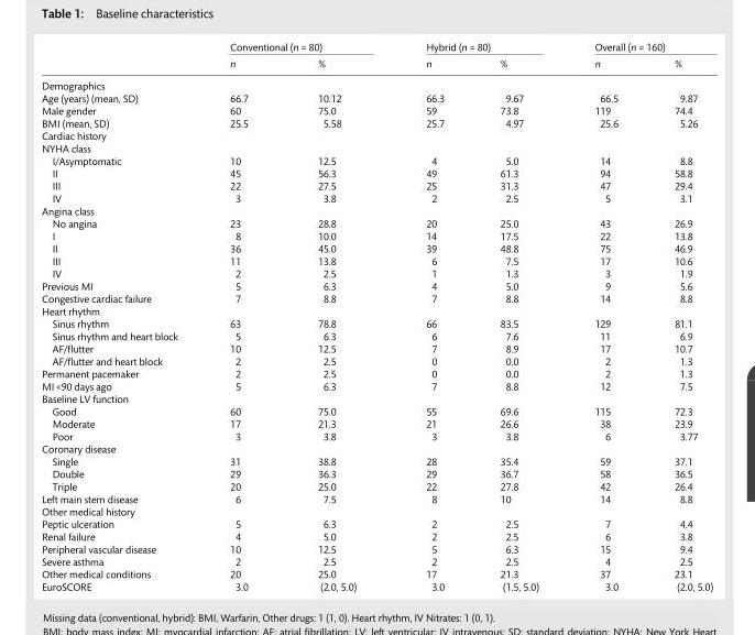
<table><thead><tr><td rowspan="2"></td><td colspan="2">Conventional (n = 80)</td><td colspan="2">Hybrid (n = 80)</td><td colspan="2">Overall (n = 160)</td></tr><tr><td>n</td><td>%</td><td>n</td><td>%</td><td>n</td><td>%</td></tr></thead><tbody><tr><td colspan="7">Demographics</td></tr><tr><td>Age (years) (mean, SD)</td><td>66.7</td><td>10.12</td><td>66.3</td><td>9.67</td><td>66.5</td><td>9.87</td></tr><tr><td>Male gender</td><td>60</td><td>75.0</td><td>59</td><td>73.8</td><td>119</td><td>74.4</td></tr><tr><td>BMI (mean, SD)</td><td>25.5</td><td>5.58</td><td>25.7</td><td>4.97</td><td>25.6</td><td>5.26</td></tr><tr><td colspan="7">Cardiac history</td></tr><tr><td colspan="7">NYHA class</td></tr><tr><td>I/Asymptomatic</td><td>10</td><td>12.5</td><td>4</td><td>5.0</td><td>14</td><td>8.8</td></tr><tr><td>II</td><td>45</td><td>56.3</td><td>49</td><td>61.3</td><td>94</td><td>58.8</td></tr><tr><td>III</td><td>22</td><td>27.5</td><td>25</td><td>31.3</td><td>47</td><td>29.4</td></tr><tr><td>IV</td><td>3</td><td>3.8</td><td>2</td><td>2.5</td><td>5</td><td>3.1</td></tr><tr><td colspan="7">Angina class</td></tr><tr><td>No angina</td><td>23</td><td>28.8</td><td>20</td><td>25.0</td><td>43</td><td>26.9</td></tr><tr><td>I</td><td>8</td><td>10.0</td><td>14</td><td>17.5</td><td>22</td><td>13.8</td></tr><tr><td>II</td><td>36</td><td>45.0</td><td>39</td><td>48.8</td><td>75</td><td>46.9</td></tr><tr><td>III</td><td>11</td><td>13.8</td><td>6</td><td>7.5</td><td>17</td><td>10.6</td></tr><tr><td>IV</td><td>2</td><td>2.5</td><td>1</td><td>1.3</td><td>3</td><td>1.9</td></tr><tr><td>Previous MI</td><td>5</td><td>6.3</td><td>4</td><td>5.0</td><td>9</td><td>5.6</td></tr><tr><td>Congestive cardiac failure</td><td>7</td><td>8.8</td><td>7</td><td>8.8</td><td>14</td><td>8.8</td></tr><tr><td colspan="7">Heart rhythm</td></tr><tr><td>Sinus rhythm</td><td>63</td><td>78.8</td><td>66</td><td>83.5</td><td>129</td><td>81.1</td></tr><tr><td>Sinus rhythm and heart block</td><td>5</td><td>6.3</td><td>6</td><td>7.6</td><td>11</td><td>6.9</td></tr><tr><td>AF/flutter</td><td>10</td><td>12.5</td><td>7</td><td>8.9</td><td>17</td><td>10.7</td></tr><tr><td>AF/flutter and heart block</td><td>2</td><td>2.5</td><td>0</td><td>0.0</td><td>2</td><td>1.3</td></tr><tr><td>Permanent pacemaker</td><td>2</td><td>2.5</td><td>0</td><td>0.0</td><td>2</td><td>1.3</td></tr><tr><td>MI &lt;90 days ago</td><td>5</td><td>6.3</td><td>7</td><td>8.8</td><td>12</td><td>7.5</td></tr><tr><td colspan="7">Baseline LV function</td></tr><tr><td>Good</td><td>60</td><td>75.0</td><td>55</td><td>69.6</td><td>115</td><td>72.3</td></tr><tr><td>Moderate</td><td>17</td><td>21.3</td><td>21</td><td>26.6</td><td>38</td><td>23.9</td></tr><tr><td>Poor</td><td>3</td><td>3.8</td><td>3</td><td>3.8</td><td>6</td><td>3.77</td></tr><tr><td colspan="7">Coronary disease</td></tr><tr><td>Single</td><td>31</td><td>38.8</td><td>28</td><td>35.4</td><td>59</td><td>37.1</td></tr><tr><td>Double</td><td>29</td><td>36.3</td><td>29</td><td>36.7</td><td>58</td><td>36.5</td></tr><tr><td>Triple</td><td>20</td><td>25.0</td><td>22</td><td>27.8</td><td>42</td><td>26.4</td></tr><tr><td>Left main stem disease</td><td>6</td><td>7.5</td><td>8</td><td>10</td><td>14</td><td>8.8</td></tr><tr><td colspan="7">Other medical history</td></tr><tr><td>Peptic ulceration</td><td>5</td><td>6.3</td><td>2</td><td>2.5</td><td>7</td><td>4.4</td></tr><tr><td>Renal failure</td><td>4</td><td>5.0</td><td>2</td><td>2.5</td><td>6</td><td>3.8</td></tr><tr><td>Peripheral vascular disease</td><td>10</td><td>12.5</td><td>5</td><td>6.3</td><td>15</td><td>9.4</td></tr><tr><td>Severe asthma</td><td>2</td><td>2.5</td><td>2</td><td>2.5</td><td>4</td><td>2.5</td></tr><tr><td>Other medical conditions</td><td>20</td><td>25.0</td><td>17</td><td>21.3</td><td>37</td><td>23.1</td></tr><tr><td>EuroSCORE</td><td>3.0</td><td>(2.0, 5.0)</td><td>3.0</td><td>(1.5, 5.0)</td><td>3.0</td><td>(2.0, 5.0)</td></tr></tbody></table>